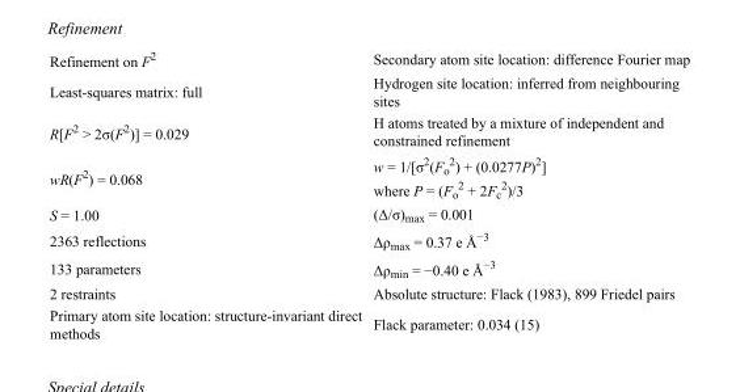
<table><tbody><tr><td>Refinement on F<sup>2</sup></td><td>Secondary atom site location: difference Fourier map</td></tr><tr><td>Least-squares matrix: full</td><td>Hydrogen site location: inferred from neighbouring sites</td></tr><tr><td>R[F<sup>2</sup> &gt; 2σ(F<sup>2</sup>)] = 0.029</td><td>H atoms treated by a mixture of independent and constrained refinement</td></tr><tr><td>wR(F<sup>2</sup>) = 0.068</td><td>w = 1/[σ<sup>2</sup>(F<sub>o</sub> <sup>2</sup>) + (0.0277P)<sup>2</sup>] where P = (F<sub>o</sub> <sup>2</sup> + 2F<sub>c</sub> <sup>2</sup>)/3</td></tr><tr><td>S = 1.00</td><td>(Δ/σ)<sub>max</sub> = 0.001</td></tr><tr><td>2363 reflections</td><td>Δρ<sub>max</sub> = 0.37 e Å<sup>−3</sup></td></tr><tr><td>133 parameters</td><td>Δρ<sub>min</sub> = −0.40 e Å<sup>−3</sup></td></tr><tr><td>2 restraints</td><td>Absolute structure: Flack (1983), 899 Friedel pairs</td></tr><tr><td>Primary atom site location: structure-invariant direct methods</td><td>Flack parameter: 0.034 (15)</td></tr></tbody></table>